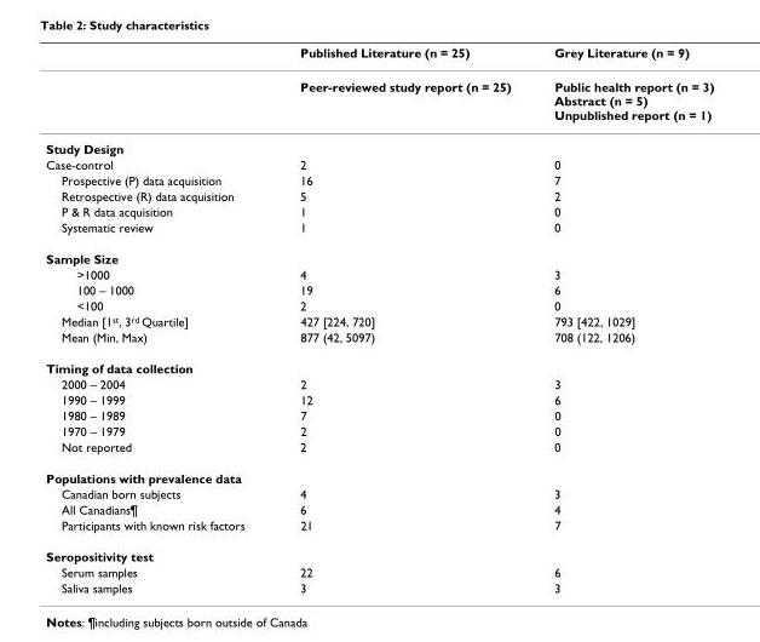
<table><thead><tr><td></td><td>Published Literature (n = 25)</td><td>Grey Literature (n = 9)</td></tr></thead><tbody><tr><td></td><td>Peer-reviewed study report (n = 25)</td><td>Public health report (n = 3) Abstract (n = 5) Unpublished report (n = 1)</td></tr><tr><td colspan="3">Study Design</td></tr><tr><td>Case-control</td><td>2</td><td>0</td></tr><tr><td>Prospective (P) data acquisition</td><td>16</td><td>7</td></tr><tr><td>Retrospective (R) data acquisition</td><td>5</td><td>2</td></tr><tr><td>P &amp; R data acquisition</td><td>1</td><td>0</td></tr><tr><td>Systematic review</td><td>1</td><td>0</td></tr><tr><td colspan="3">Sample Size</td></tr><tr><td>&gt;1000</td><td>4</td><td>3</td></tr><tr><td>100 – 1000</td><td>19</td><td>6</td></tr><tr><td>&lt;100</td><td>2</td><td>0</td></tr><tr><td>Median [1<sup>st</sup>, 3<sup>rd</sup> Quartile]</td><td>427 [224, 720]</td><td>793 [422, 1029]</td></tr><tr><td>Mean (Min, Max)</td><td>877 (42, 5097)</td><td>708 (122, 1206)</td></tr><tr><td colspan="3">Timing of data collection</td></tr><tr><td>2000 – 2004</td><td>2</td><td>3</td></tr><tr><td>1990 – 1999</td><td>12</td><td>6</td></tr><tr><td>1980 – 1989</td><td>7</td><td>0</td></tr><tr><td>1970 – 1979</td><td>2</td><td>0</td></tr><tr><td>Not reported</td><td>2</td><td>0</td></tr><tr><td colspan="3">Populations with prevalence data</td></tr><tr><td>Canadian born subjects</td><td>4</td><td>3</td></tr><tr><td>All Canadians¶</td><td>6</td><td>4</td></tr><tr><td>Participants with known risk factors</td><td>21</td><td>7</td></tr><tr><td colspan="3">Seropositivity test</td></tr><tr><td>Serum samples</td><td>22</td><td>6</td></tr><tr><td>Saliva samples</td><td>3</td><td>3</td></tr></tbody></table>